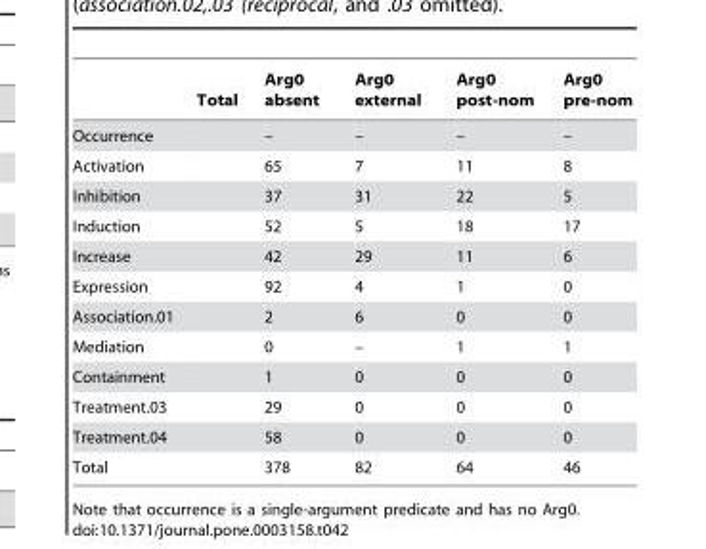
<table><thead><tr><td></td><td>Total</td><td>Arg0 absent</td><td>Arg0 external</td><td>Arg0 post-nom</td><td>Arg0 pre-nom</td></tr></thead><tbody><tr><td>Occurrence</td><td></td><td>–</td><td>–</td><td>–</td><td>–</td></tr><tr><td>Activation</td><td></td><td>65</td><td>7</td><td>11</td><td>8</td></tr><tr><td>Inhibition</td><td></td><td>37</td><td>31</td><td>22</td><td>5</td></tr><tr><td>Induction</td><td></td><td>52</td><td>5</td><td>18</td><td>17</td></tr><tr><td>Increase</td><td></td><td>42</td><td>29</td><td>11</td><td>6</td></tr><tr><td>Expression</td><td></td><td>92</td><td>4</td><td>1</td><td>0</td></tr><tr><td>Association.01</td><td></td><td>2</td><td>6</td><td>0</td><td>0</td></tr><tr><td>Mediation</td><td></td><td>0</td><td>–</td><td>1</td><td>1</td></tr><tr><td>Containment</td><td></td><td>1</td><td>0</td><td>0</td><td>0</td></tr><tr><td>Treatment.03</td><td></td><td>29</td><td>0</td><td>0</td><td>0</td></tr><tr><td>Treatment.04</td><td></td><td>58</td><td>0</td><td>0</td><td>0</td></tr><tr><td>Total</td><td></td><td>378</td><td>82</td><td>64</td><td>46</td></tr></tbody></table>